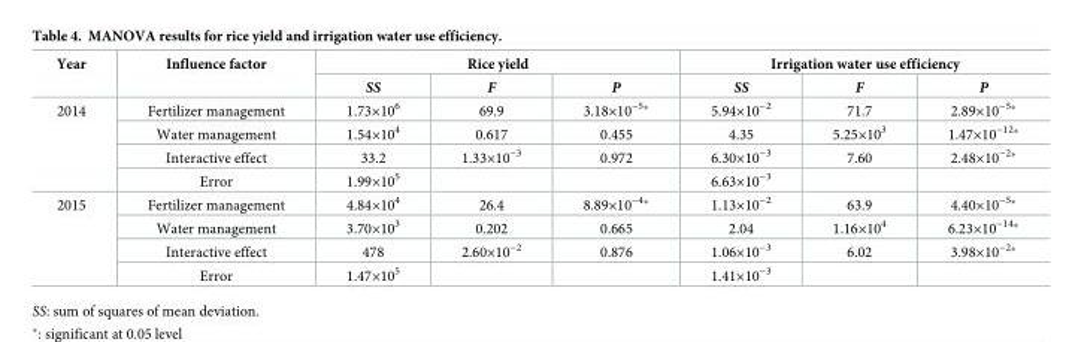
<table><thead><tr><td rowspan="2">Year</td><td rowspan="2">Influence factor</td><td colspan="3">Rice yield</td><td colspan="3">Irrigation water use efficiency</td></tr><tr><td>SS</td><td>F</td><td>P</td><td>SS</td><td>F</td><td>P</td></tr></thead><tbody><tr><td rowspan="4">2014</td><td>Fertilizer management</td><td>1.73×10<sup>6</sup></td><td>69.9</td><td>3.18×10<sup>−5</sup>*</td><td>5.94×10<sup>−2</sup></td><td>71.7</td><td>2.89×10<sup>−5</sup>*</td></tr><tr><td>Water management</td><td>1.54×10<sup>4</sup></td><td>0.617</td><td>0.455</td><td>4.35</td><td>5.25×10<sup>3</sup></td><td>1.47×10<sup>−12</sup>*</td></tr><tr><td>Interactive effect</td><td>33.2</td><td>1.33×10<sup>−3</sup></td><td>0.972</td><td>6.30×10<sup>−3</sup></td><td>7.60</td><td>2.48×10<sup>−2</sup>*</td></tr><tr><td>Error</td><td>1.99×10<sup>5</sup></td><td></td><td></td><td>6.63×10<sup>−3</sup></td><td></td><td></td></tr><tr><td rowspan="4">2015</td><td>Fertilizer management</td><td>4.84×10<sup>4</sup></td><td>26.4</td><td>8.89×10<sup>−4</sup>*</td><td>1.13×10<sup>−2</sup></td><td>63.9</td><td>4.40×10<sup>−5</sup>*</td></tr><tr><td>Water management</td><td>3.70×10<sup>3</sup></td><td>0.202</td><td>0.665</td><td>2.04</td><td>1.16×10<sup>4</sup></td><td>6.23×10<sup>−14</sup>*</td></tr><tr><td>Interactive effect</td><td>478</td><td>2.60×10<sup>−2</sup></td><td>0.876</td><td>1.06×10<sup>−3</sup></td><td>6.02</td><td>3.98×10<sup>−2</sup>*</td></tr><tr><td>Error</td><td>1.47×10<sup>5</sup></td><td></td><td></td><td>1.41×10<sup>−3</sup></td><td></td><td></td></tr></tbody></table>